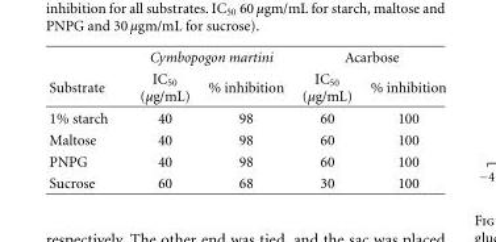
<table><thead><tr><td rowspan="2">Substrate</td><td colspan="2">Cymbopogon martini</td><td colspan="2">Acarbose</td></tr><tr><td>IC<sub>50</sub> (μg/mL)</td><td>% inhibition</td><td>IC<sub>50</sub> (μg/mL)</td><td>% inhibition</td></tr></thead><tbody><tr><td>1% starch</td><td>40</td><td>98</td><td>60</td><td>100</td></tr><tr><td>Maltose</td><td>40</td><td>98</td><td>60</td><td>100</td></tr><tr><td>PNPG</td><td>40</td><td>98</td><td>60</td><td>100</td></tr><tr><td>Sucrose</td><td>60</td><td>68</td><td>30</td><td>100</td></tr></tbody></table>